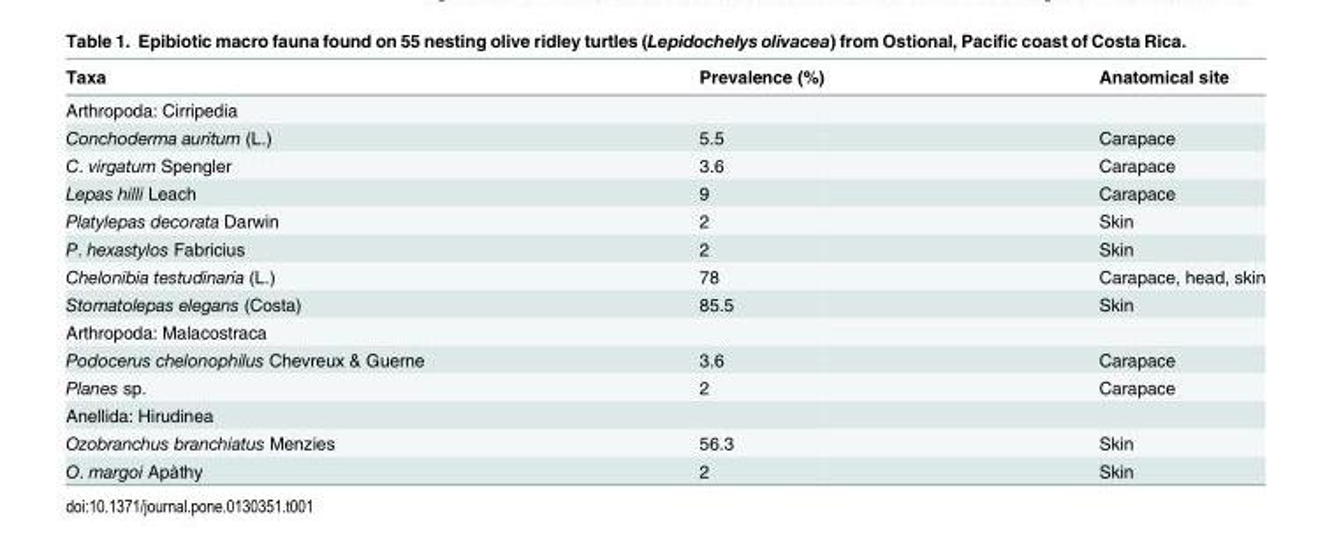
<table><thead><tr><td>Taxa</td><td>Prevalence (%)</td><td>Anatomical site</td></tr></thead><tbody><tr><td colspan="3">Arthropoda: Cirripedia</td></tr><tr><td>Conchoderma auritum (L.)</td><td>5.5</td><td>Carapace</td></tr><tr><td>C. virgatum Spengler</td><td>3.6</td><td>Carapace</td></tr><tr><td>Lepas hilli Leach</td><td>9</td><td>Carapace</td></tr><tr><td>Platylepas decorata Darwin</td><td>2</td><td>Skin</td></tr><tr><td>P. hexastylos Fabricius</td><td>2</td><td>Skin</td></tr><tr><td>Chelonibia testudinaria (L.)</td><td>78</td><td>Carapace, head, skin</td></tr><tr><td>Stomatolepas elegans (Costa)</td><td>85.5</td><td>Skin</td></tr><tr><td colspan="3">Arthropoda: Malacostraca</td></tr><tr><td>Podocerus chelonophilus Chevreux &amp; Guerne</td><td>3.6</td><td>Carapace</td></tr><tr><td>Planes sp.</td><td>2</td><td>Carapace</td></tr><tr><td colspan="3">Anellida: Hirudinea</td></tr><tr><td>Ozobranchus branchiatus Menzies</td><td>56.3</td><td>Skin</td></tr><tr><td>O. margoi Apàthy</td><td>2</td><td>Skin</td></tr></tbody></table>